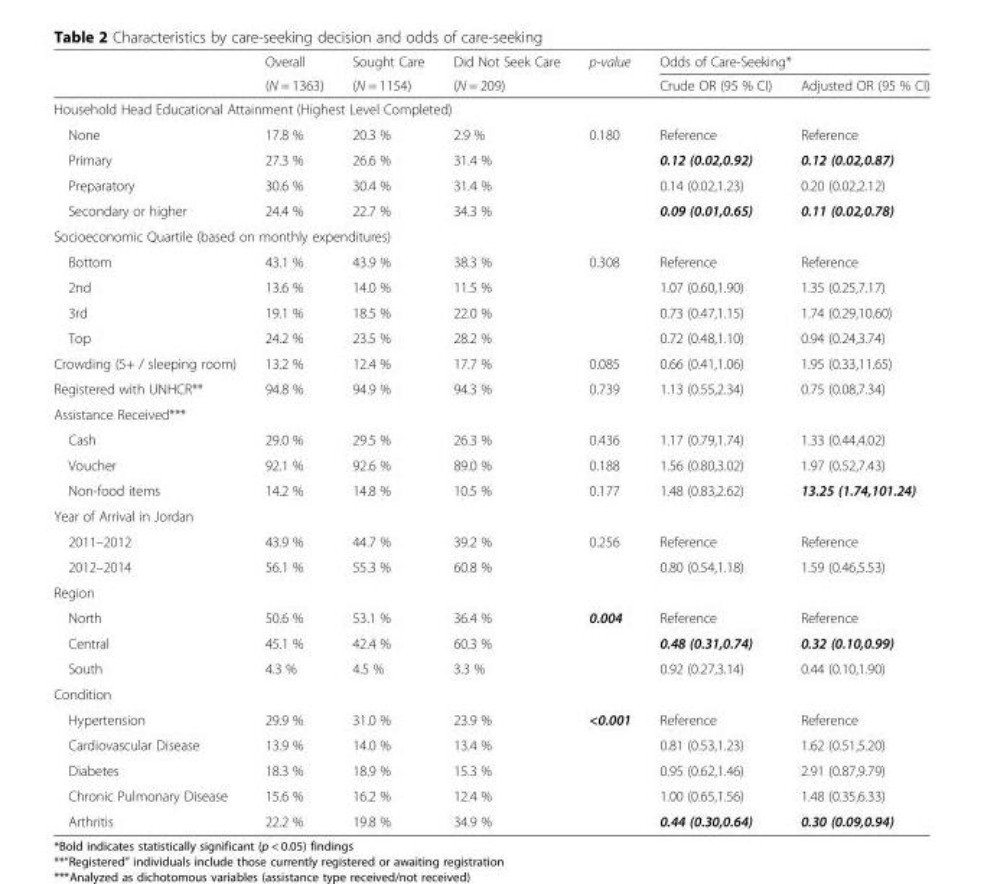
<table><thead><tr><td rowspan="2"></td><td rowspan="2">Overall (N = 1363)</td><td rowspan="2">Sought Care (N = 1154)</td><td rowspan="2">Did Not Seek Care (N = 209)</td><td rowspan="2">p-value</td><td colspan="2">Odds of Care-Seeking*</td></tr><tr><td>Crude OR (95 % CI)</td><td>Adjusted OR (95 % CI)</td></tr></thead><tbody><tr><td colspan="7">Household Head Educational Attainment (Highest Level Completed)</td></tr><tr><td>None</td><td>17.8 %</td><td>20.3 %</td><td>2.9 %</td><td rowspan="4">0.180</td><td>Reference</td><td>Reference</td></tr><tr><td>Primary</td><td>27.3 %</td><td>26.6 %</td><td>31.4 %</td><td>0.12 (0.02,0.92)</td><td>0.12 (0.02,0.87)</td></tr><tr><td>Preparatory</td><td>30.6 %</td><td>30.4 %</td><td>31.4 %</td><td>0.14 (0.02,1.23)</td><td>0.20 (0.02,2.12)</td></tr><tr><td>Secondary or higher</td><td>24.4 %</td><td>22.7 %</td><td>34.3 %</td><td>0.09 (0.01,0.65)</td><td>0.11 (0.02,0.78)</td></tr><tr><td colspan="7">Socioeconomic Quartile (based on monthly expenditures)</td></tr><tr><td>Bottom</td><td>43.1 %</td><td>43.9 %</td><td>38.3 %</td><td rowspan="4">0.308</td><td>Reference</td><td>Reference</td></tr><tr><td>2nd</td><td>13.6 %</td><td>14.0 %</td><td>11.5 %</td><td>1.07 (0.60,1.90)</td><td>1.35 (0.25,7.17)</td></tr><tr><td>3rd</td><td>19.1 %</td><td>18.5 %</td><td>22.0 %</td><td>0.73 (0.47,1.15)</td><td>1.74 (0.29,10.60)</td></tr><tr><td>Top</td><td>24.2 %</td><td>23.5 %</td><td>28.2 %</td><td>0.72 (0.48,1.10)</td><td>0.94 (0.24,3.74)</td></tr><tr><td>Crowding (5+ / sleeping room)</td><td>13.2 %</td><td>12.4 %</td><td>17.7 %</td><td>0.085</td><td>0.66 (0.41,1.06)</td><td>1.95 (0.33,11.65)</td></tr><tr><td>Registered with UNHCR**</td><td>94.8 %</td><td>94.9 %</td><td>94.3 %</td><td>0.739</td><td>1.13 (0.55,2.34)</td><td>0.75 (0.08,7.34)</td></tr><tr><td colspan="7">Assistance Received***</td></tr><tr><td>Cash</td><td>29.0 %</td><td>29.5 %</td><td>26.3 %</td><td>0.436</td><td>1.17 (0.79,1.74)</td><td>1.33 (0.44,4.02)</td></tr><tr><td>Voucher</td><td>92.1 %</td><td>92.6 %</td><td>89.0 %</td><td>0.188</td><td>1.56 (0.80,3.02)</td><td>1.97 (0.52,7.43)</td></tr><tr><td>Non-food items</td><td>14.2 %</td><td>14.8 %</td><td>10.5 %</td><td>0.177</td><td>1.48 (0.83,2.62)</td><td>13.25 (1.74,101.24)</td></tr><tr><td colspan="7">Year of Arrival in Jordan</td></tr><tr><td>2011–2012</td><td>43.9 %</td><td>44.7 %</td><td>39.2 %</td><td rowspan="2">0.256</td><td>Reference</td><td>Reference</td></tr><tr><td>2012–2014</td><td>56.1 %</td><td>55.3 %</td><td>60.8 %</td><td>0.80 (0.54,1.18)</td><td>1.59 (0.46,5.53)</td></tr><tr><td colspan="7">Region</td></tr><tr><td>North</td><td>50.6 %</td><td>53.1 %</td><td>36.4 %</td><td rowspan="3">0.004</td><td>Reference</td><td>Reference</td></tr><tr><td>Central</td><td>45.1 %</td><td>42.4 %</td><td>60.3 %</td><td>0.48 (0.31,0.74)</td><td>0.32 (0.10,0.99)</td></tr><tr><td>South</td><td>4.3 %</td><td>4.5 %</td><td>3.3 %</td><td>0.92 (0.27,3.14)</td><td>0.44 (0.10,1.90)</td></tr><tr><td colspan="7">Condition</td></tr><tr><td>Hypertension</td><td>29.9 %</td><td>31.0 %</td><td>23.9 %</td><td rowspan="5">&lt;0.001</td><td>Reference</td><td>Reference</td></tr><tr><td>Cardiovascular Disease</td><td>13.9 %</td><td>14.0 %</td><td>13.4 %</td><td>0.81 (0.53,1.23)</td><td>1.62 (0.51,5.20)</td></tr><tr><td>Diabetes</td><td>18.3 %</td><td>18.9 %</td><td>15.3 %</td><td>0.95 (0.62,1.46)</td><td>2.91 (0.87,9.79)</td></tr><tr><td>Chronic Pulmonary Disease</td><td>15.6 %</td><td>16.2 %</td><td>12.4 %</td><td>1.00 (0.65,1.56)</td><td>1.48 (0.35,6.33)</td></tr><tr><td>Arthritis</td><td>22.2 %</td><td>19.8 %</td><td>34.9 %</td><td>0.44 (0.30,0.64)</td><td>0.30 (0.09,0.94)</td></tr></tbody></table>